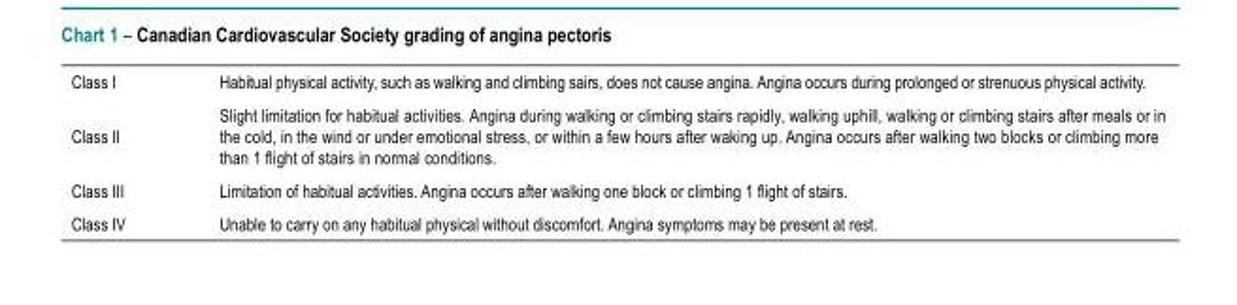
<table><tbody><tr><td>Class I</td><td>Habitual physical activity, such as walking and climbing sairs, does not cause angina. Angina occurs during prolonged or strenuous physical activity.</td></tr><tr><td>Class II</td><td>Slight limitation for habitual activities. Angina during walking or climbing stairs rapidly, walking uphill, walking or climbing stairs after meals or in the cold, in the wind or under emotional stress, or within a few hours after waking up. Angina occurs after walking two blocks or climbing more than 1 flight of stairs in normal conditions.</td></tr><tr><td>Class III</td><td>Limitation of habitual activities. Angina occurs after walking one block or climbing 1 flight of stairs.</td></tr><tr><td>Class IV</td><td>Unable to carry on any habitual physical without discomfort. Angina symptoms may be present at rest.</td></tr></tbody></table>